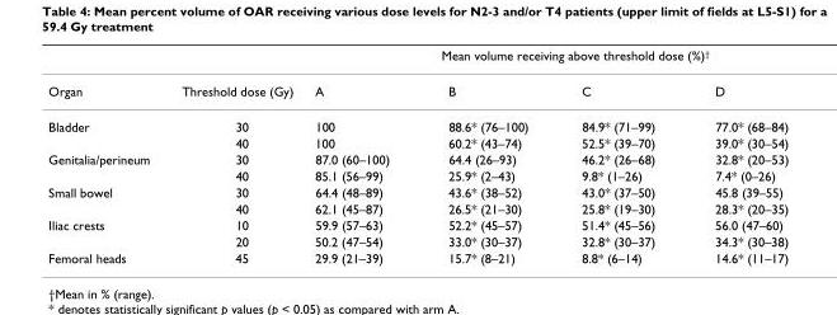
<table><thead><tr><td rowspan="2">Organ</td><td rowspan="2">Threshold dose (Gy)</td><td colspan="4">Mean volume receiving above threshold dose (%)<sup>†</sup></td></tr><tr><td>A</td><td>B</td><td>C</td><td>D</td></tr></thead><tbody><tr><td rowspan="2">Bladder</td><td>30</td><td>100</td><td>88.6* (76–100)</td><td>84.9* (71–99)</td><td>77.0* (68–84)</td></tr><tr><td>40</td><td>100</td><td>60.2* (43–74)</td><td>52.5* (39–70)</td><td>39.0* (30–54)</td></tr><tr><td rowspan="2">Genitalia/perineum</td><td>30</td><td>87.0 (60–100)</td><td>64.4 (26–93)</td><td>46.2* (26–68)</td><td>32.8* (20–53)</td></tr><tr><td>40</td><td>85.1 (56–99)</td><td>25.9* (2–43)</td><td>9.8* (1–26)</td><td>7.4* (0–26)</td></tr><tr><td rowspan="2">Small bowel</td><td>30</td><td>64.4 (48–89)</td><td>43.6* (38–52)</td><td>43.0* (37–50)</td><td>45.8 (39–55)</td></tr><tr><td>40</td><td>62.1 (45–87)</td><td>26.5* (21–30)</td><td>25.8* (19–30)</td><td>28.3* (20–35)</td></tr><tr><td rowspan="2">Iliac crests</td><td>10</td><td>59.9 (57–63)</td><td>52.2* (45–57)</td><td>51.4* (45–56)</td><td>56.0 (47–60)</td></tr><tr><td>20</td><td>50.2 (47–54)</td><td>33.0* (30–37)</td><td>32.8* (30–37)</td><td>34.3* (30–38)</td></tr><tr><td>Femoral heads</td><td>45</td><td>29.9 (21–39)</td><td>15.7* (8–21)</td><td>8.8* (6–14)</td><td>14.6* (11–17)</td></tr></tbody></table>